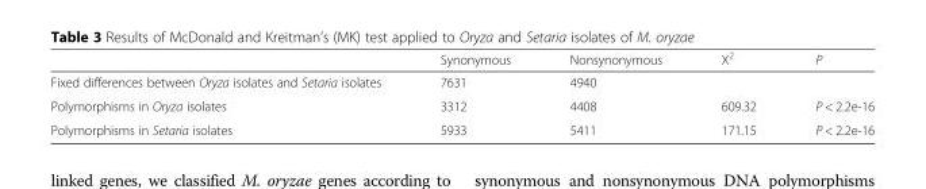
<table><thead><tr><td></td><td>Synonymous</td><td>Nonsynonymous</td><td>Χ<sup>2</sup></td><td>P</td></tr></thead><tbody><tr><td>Fixed differences between Oryza isolates and Setaria isolates</td><td>7631</td><td>4940</td><td></td><td></td></tr><tr><td>Polymorphisms in Oryza isolates</td><td>3312</td><td>4408</td><td>609.32</td><td>P &lt; 2.2e-16</td></tr><tr><td>Polymorphisms in Setaria isolates</td><td>5933</td><td>5411</td><td>171.15</td><td>P &lt; 2.2e-16</td></tr></tbody></table>